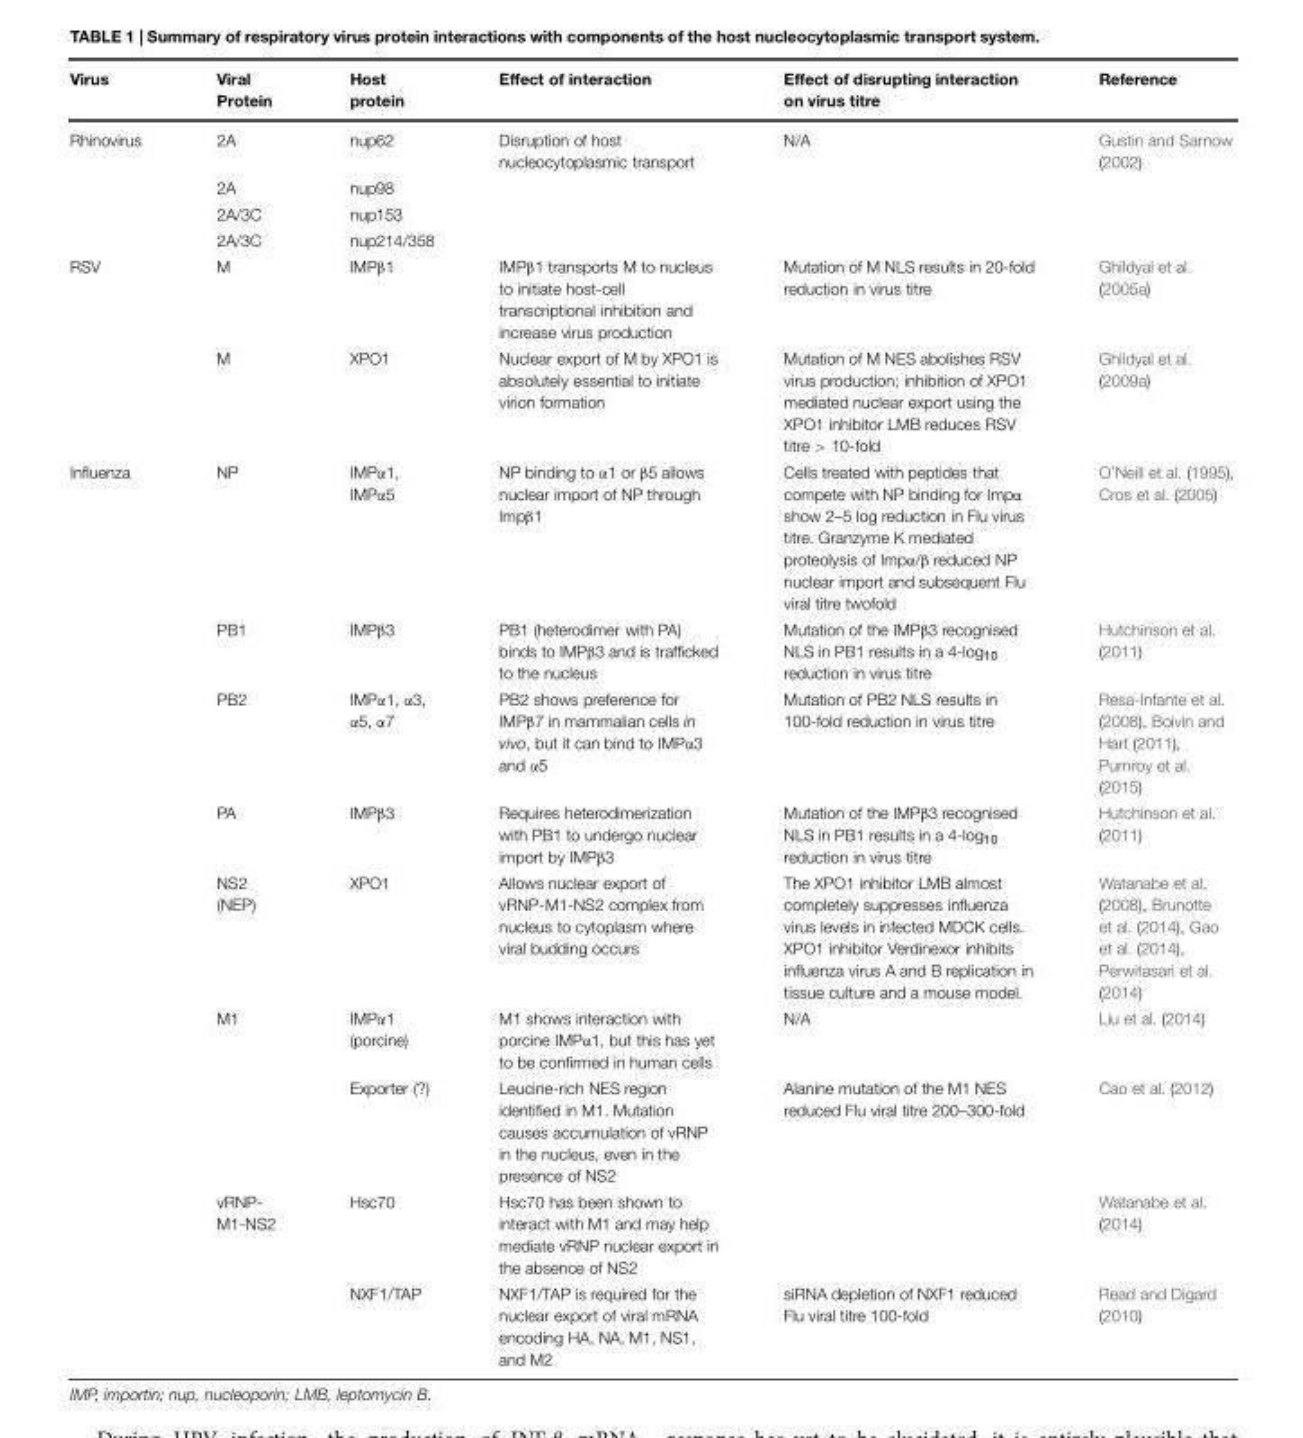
<table><thead><tr><td>Virus</td><td>Viral Protein</td><td>Host protein</td><td>Effect of interaction</td><td>Effect of disrupting interaction on virus titre</td><td>Reference</td></tr></thead><tbody><tr><td rowspan="4">Rhinovirus</td><td>2A</td><td>nup62</td><td>Disruption of host nucleocytoplasmic transport</td><td>N/A</td><td>Gustin and Sarnow (2002)</td></tr><tr><td>2A</td><td>nup98</td><td></td><td></td><td></td></tr><tr><td>2A/3C</td><td>nup153</td><td></td><td></td><td></td></tr><tr><td>2A/3C</td><td>nup214/358</td><td></td><td></td><td></td></tr><tr><td rowspan="2">RSV</td><td>M</td><td>IMPβ1</td><td>IMPβ1 transports M to nucleus to initiate host-cell transcriptional inhibition and increase virus production</td><td>Mutation of M NLS results in 20-fold reduction in virus titre</td><td>Ghildyal et al. (2005a)</td></tr><tr><td>M</td><td>XPO1</td><td>Nuclear export of M by XPO1 is absolutely essential to initiate virion formation</td><td>Mutation of M NES abolishes RSV virus production; inhibition of XPO1 mediated nuclear export using the XPO1 inhibitor LMB reduces RSV titre &gt; 10-fold</td><td>Ghildyal et al. (2009a)</td></tr><tr><td rowspan="9">Influenza</td><td>NP</td><td>IMPα1, IMPα5</td><td>NP binding to α1 or β5 allows nuclear import of NP through Impβ1</td><td>Cells treated with peptides that compete with NP binding for Impα show 2–5 log reduction in Flu virus titre. Granzyme K mediated proteolysis of Impα/β reduced NP nuclear import and subsequent Flu viral titre twofold</td><td>O’Neill et al. (1995), Cros et al. (2005)</td></tr><tr><td>PB1</td><td>IMPβ3</td><td>PB1 (heterodimer with PA) binds to IMPβ3 and is trafficked to the nucleus</td><td>Mutation of the IMPβ3 recognised NLS in PB1 results in a 4-log<sub>10</sub> reduction in virus titre</td><td>Hutchinson et al. (2011)</td></tr><tr><td>PB2</td><td>IMPα1, α3, α5, α7</td><td>PB2 shows preference for IMPβ7 in mammalian cells in vivo, but it can bind to IMPα3 and α5</td><td>Mutation of PB2 NLS results in 100-fold reduction in virus titre</td><td>Resa-Infante et al. (2008), Boivin and Hart (2011), Pumroy et al. (2015)</td></tr><tr><td>PA</td><td>IMPβ3</td><td>Requires heterodimerization with PB1 to undergo nuclear import by IMPβ3</td><td>Mutation of the IMPβ3 recognised NLS in PB1 results in a 4-log<sub>10</sub> reduction in virus titre</td><td>Hutchinson et al. (2011)</td></tr><tr><td>NS2 (NEP)</td><td>XPO1</td><td>Allows nuclear export of vRNP-M1-NS2 complex from nucleus to cytoplasm where viral budding occurs</td><td>The XPO1 inhibitor LMB almost completely suppresses influenza virus levels in infected MDCK cells. XPO1 inhibitor Verdinexor inhibits influenza virus A and B replication in tissue culture and a mouse model.</td><td>Watanabe et al. (2008), Brunotte et al. (2014), Gao et al. (2014), Perwitasari et al. (2014)</td></tr><tr><td>M1</td><td>IMPα1 (porcine)</td><td>M1 shows interaction with porcine IMPα1, but this has yet to be confirmed in human cells</td><td>N/A</td><td>Liu et al. (2014)</td></tr><tr><td></td><td>Exporter (?)</td><td>Leucine-rich NES region identified in M1. Mutation causes accumulation of vRNP in the nucleus, even in the presence of NS2</td><td>Alanine mutation of the M1 NES reduced Flu viral titre 200–300-fold</td><td>Cao et al. (2012)</td></tr><tr><td>vRNP- M1-NS2</td><td>Hsc70</td><td>Hsc70 has been shown to interact with M1 and may help mediate vRNP nuclear export in the absence of NS2</td><td></td><td>Watanabe et al. (2014)</td></tr><tr><td></td><td>NXF1/TAP</td><td>NXF1/TAP is required for the nuclear export of viral mRNA encoding HA, NA, M1, NS1, and M2</td><td>siRNA depletion of NXF1 reduced Flu viral titre 100-fold</td><td>Read and Digard (2010)</td></tr></tbody></table>